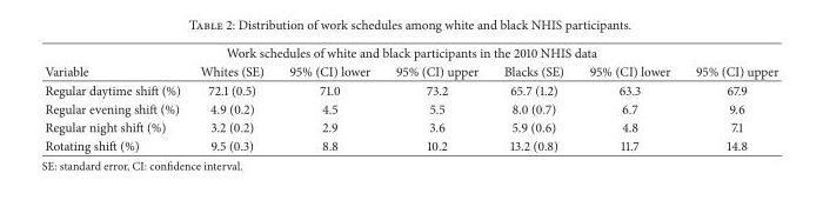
<table><thead><tr><td colspan="7">Work schedules of white and black participants in the 2010 NHIS data</td></tr><tr><td>Variable</td><td>Whites (SE)</td><td>95% (CI) lower</td><td>95% (CI) upper</td><td>Blacks (SE)</td><td>95% (CI) lower</td><td>95% (CI) upper</td></tr></thead><tbody><tr><td>Regular daytime shift (%)</td><td>72.1 (0.5)</td><td>71.0</td><td>73.2</td><td>65.7 (1.2)</td><td>63.3</td><td>67.9</td></tr><tr><td>Regular evening shift (%)</td><td>4.9 (0.2)</td><td>4.5</td><td>5.5</td><td>8.0 (0.7)</td><td>6.7</td><td>9.6</td></tr><tr><td>Regular night shift (%)</td><td>3.2 (0.2)</td><td>2.9</td><td>3.6</td><td>5.9 (0.6)</td><td>4.8</td><td>7.1</td></tr><tr><td>Rotating shift (%)</td><td>9.5 (0.3)</td><td>8.8</td><td>10.2</td><td>13.2 (0.8)</td><td>11.7</td><td>14.8</td></tr></tbody></table>